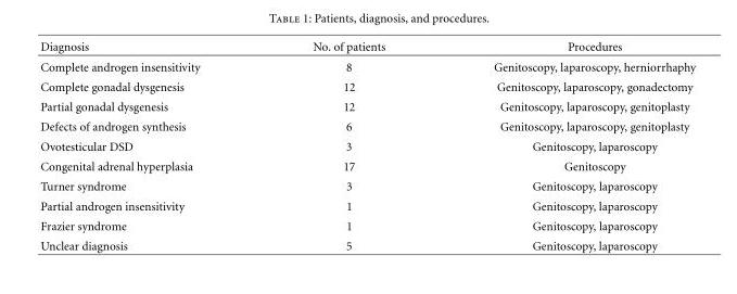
<table><thead><tr><td>Diagnosis</td><td>No. of patients</td><td>Procedures</td></tr></thead><tbody><tr><td>Complete androgen insensitivity</td><td>8</td><td>Genitoscopy, laparoscopy, herniorrhaphy</td></tr><tr><td>Complete gonadal dysgenesis</td><td>12</td><td>Genitoscopy, laparoscopy, gonadectomy</td></tr><tr><td>Partial gonadal dysgenesis</td><td>12</td><td>Genitoscopy, laparoscopy, genitoplasty</td></tr><tr><td>Defects of androgen synthesis</td><td>6</td><td>Genitoscopy, laparoscopy, genitoplasty</td></tr><tr><td>Ovotesticular DSD</td><td>3</td><td>Genitoscopy, laparoscopy</td></tr><tr><td>Congenital adrenal hyperplasia</td><td>17</td><td>Genitoscopy</td></tr><tr><td>Turner syndrome</td><td>3</td><td>Genitoscopy, laparoscopy</td></tr><tr><td>Partial androgen insensitivity</td><td>1</td><td>Genitoscopy, laparoscopy</td></tr><tr><td>Frazier syndrome</td><td>1</td><td>Genitoscopy, laparoscopy</td></tr><tr><td>Unclear diagnosis</td><td>5</td><td>Genitoscopy, laparoscopy</td></tr></tbody></table>